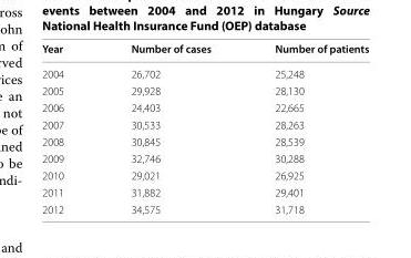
<table><thead><tr><td>Year</td><td>Number of cases</td><td>Number of patients</td></tr></thead><tbody><tr><td>2004</td><td>26,702</td><td>25,248</td></tr><tr><td>2005</td><td>29,928</td><td>28,130</td></tr><tr><td>2006</td><td>24,403</td><td>22,665</td></tr><tr><td>2007</td><td>30,533</td><td>28,263</td></tr><tr><td>2008</td><td>30,845</td><td>28,539</td></tr><tr><td>2009</td><td>32,746</td><td>30,288</td></tr><tr><td>2010</td><td>29,021</td><td>26,925</td></tr><tr><td>2011</td><td>31,882</td><td>29,401</td></tr><tr><td>2012</td><td>34,575</td><td>31,718</td></tr></tbody></table>